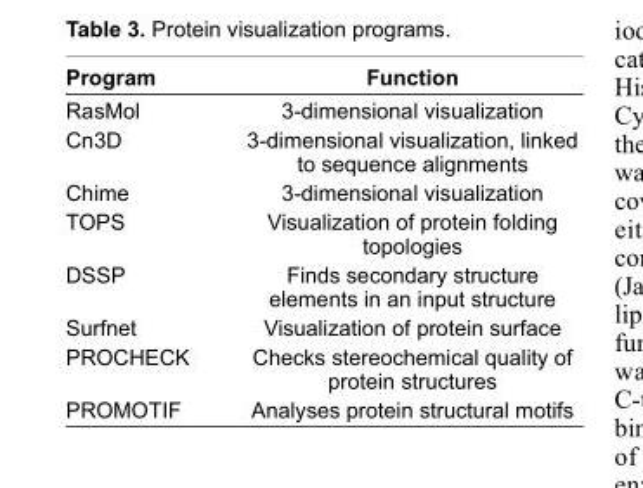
<table><thead><tr><td>Program</td><td>Function</td></tr></thead><tbody><tr><td>RasMol</td><td>3-dimensional visualization</td></tr><tr><td>Cn3D</td><td>3-dimensional visualization, linked to sequence alignments</td></tr><tr><td>Chime</td><td>3-dimensional visualization</td></tr><tr><td>TOPS</td><td>Visualization of protein folding topologies</td></tr><tr><td>DSSP</td><td>Finds secondary structure elements in an input structure</td></tr><tr><td>Surfnet</td><td>Visualization of protein surface</td></tr><tr><td>PROCHECK</td><td>Checks stereochemical quality of protein structures</td></tr><tr><td>PROMOTIF</td><td>Analyses protein structural motifs</td></tr></tbody></table>